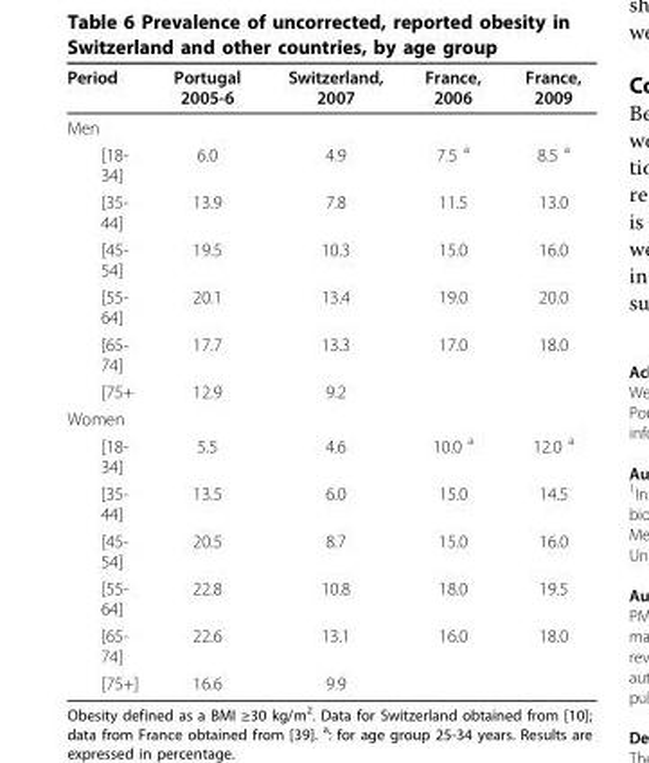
<table><thead><tr><td>Period</td><td>Portugal 2005-6</td><td>Switzerland, 2007</td><td>France, 2006</td><td>France, 2009</td></tr></thead><tbody><tr><td colspan="5">Men</td></tr><tr><td>[18- 34]</td><td>6.0</td><td>4.9</td><td>7.5 <sup>a</sup></td><td>8.5 <sup>a</sup></td></tr><tr><td>[35- 44]</td><td>13.9</td><td>7.8</td><td>11.5</td><td>13.0</td></tr><tr><td>[45- 54]</td><td>19.5</td><td>10.3</td><td>15.0</td><td>16.0</td></tr><tr><td>[55- 64]</td><td>20.1</td><td>13.4</td><td>19.0</td><td>20.0</td></tr><tr><td>[65- 74]</td><td>17.7</td><td>13.3</td><td>17.0</td><td>18.0</td></tr><tr><td>[75+</td><td>12.9</td><td>9.2</td><td></td><td></td></tr><tr><td colspan="5">Women</td></tr><tr><td>[18- 34]</td><td>5.5</td><td>4.6</td><td>10.0 <sup>a</sup></td><td>12.0 <sup>a</sup></td></tr><tr><td>[35- 44]</td><td>13.5</td><td>6.0</td><td>15.0</td><td>14.5</td></tr><tr><td>[45- 54]</td><td>20.5</td><td>8.7</td><td>15.0</td><td>16.0</td></tr><tr><td>[55- 64]</td><td>22.8</td><td>10.8</td><td>18.0</td><td>19.5</td></tr><tr><td>[65- 74]</td><td>22.6</td><td>13.1</td><td>16.0</td><td>18.0</td></tr><tr><td>[75+]</td><td>16.6</td><td>9.9</td><td></td><td></td></tr></tbody></table>